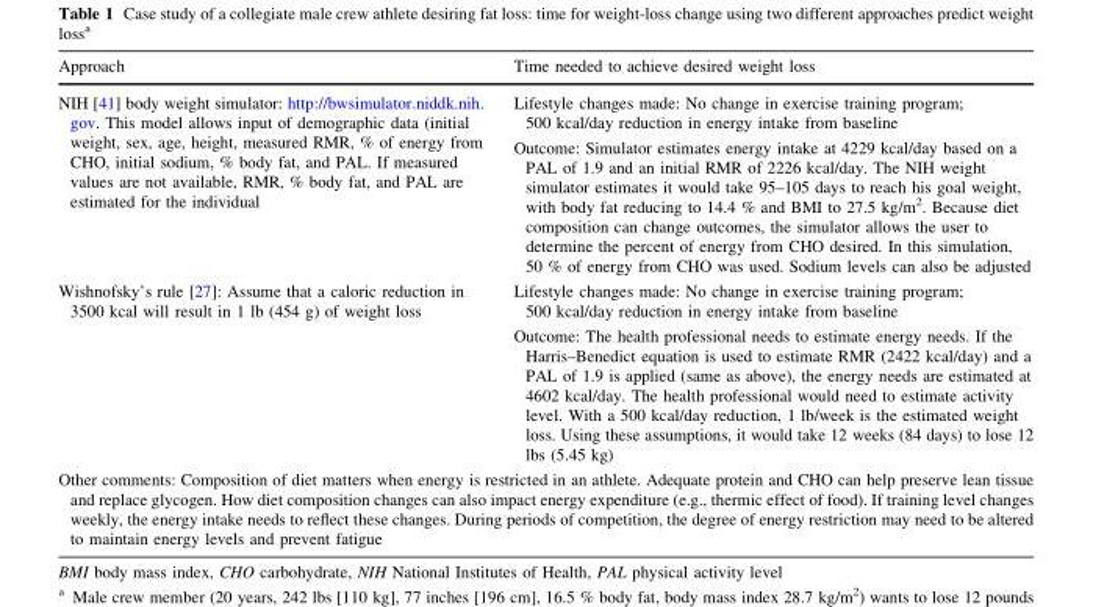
<table><thead><tr><td>Approach</td><td>Time needed to achieve desired weight loss</td></tr></thead><tbody><tr><td>NIH [41] body weight simulator: http://bwsimulator.niddk.nih. gov. This model allows input of demographic data (initial weight, sex, age, height, measured RMR, % of energy from CHO, initial sodium, % body fat, and PAL. If measured values are not available, RMR, % body fat, and PAL are estimated for the individual</td><td>Lifestyle changes made: No change in exercise training program; 500 kcal/day reduction in energy intake from baseline Outcome: Simulator estimates energy intake at 4229 kcal/day based on a PAL of 1.9 and an initial RMR of 2226 kcal/day. The NIH weight simulator estimates it would take 95–105 days to reach his goal weight, with body fat reducing to 14.4 % and BMI to 27.5 kg/m<sup>2</sup>. Because diet composition can change outcomes, the simulator allows the user to determine the percent of energy from CHO desired. In this simulation, 50 % of energy from CHO was used. Sodium levels can also be adjusted</td></tr><tr><td>Wishnofsky’s rule [27]: Assume that a caloric reduction in 3500 kcal will result in 1 lb (454 g) of weight loss</td><td>Lifestyle changes made: No change in exercise training program; 500 kcal/day reduction in energy intake from baseline Outcome: The health professional needs to estimate energy needs. If the Harris–Benedict equation is used to estimate RMR (2422 kcal/day) and a PAL of 1.9 is applied (same as above), the energy needs are estimated at 4602 kcal/day. The health professional would need to estimate activity level. With a 500 kcal/day reduction, 1 lb/week is the estimated weight loss. Using these assumptions, it would take 12 weeks (84 days) to lose 12 lbs (5.45 kg)</td></tr><tr><td colspan="2">Other comments: Composition of diet matters when energy is restricted in an athlete. Adequate protein and CHO can help preserve lean tissue and replace glycogen. How diet composition changes can also impact energy expenditure (e.g., thermic effect of food). If training level changes weekly, the energy intake needs to reflect these changes. During periods of competition, the degree of energy restriction may need to be altered to maintain energy levels and prevent fatigue</td></tr></tbody></table>